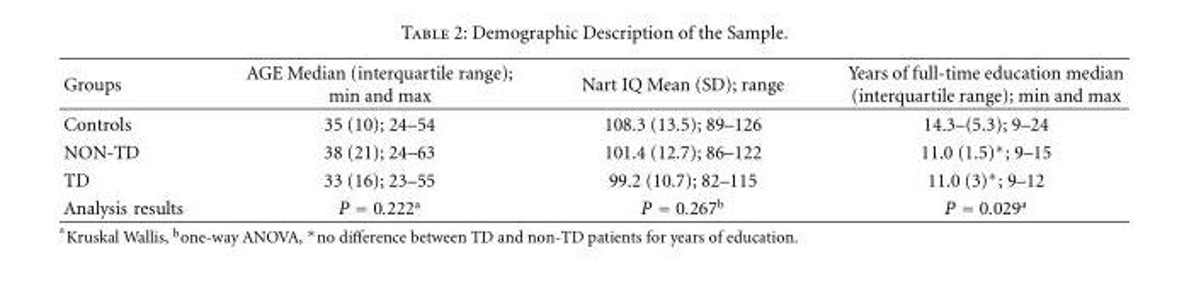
<table><thead><tr><td>Groups</td><td>AGE Median (interquartile range); min and max</td><td>Nart IQ Mean (SD); range</td><td>Years of full-time education median (interquartile range); min and max</td></tr></thead><tbody><tr><td>Controls</td><td>35 (10); 24–54</td><td>108.3 (13.5); 89–126</td><td>14.3–(5.3); 9–24</td></tr><tr><td>NON-TD</td><td>38 (21); 24–63</td><td>101.4 (12.7); 86–122</td><td>11.0 (1.5)∗; 9–15</td></tr><tr><td>TD</td><td>33 (16); 23–55</td><td>99.2 (10.7); 82–115</td><td>11.0 (3)∗; 9–12</td></tr><tr><td>Analysis results</td><td>P = 0.222<sup>a</sup></td><td>P = 0.267<sup>b</sup></td><td>P = 0.029<sup>a</sup></td></tr></tbody></table>